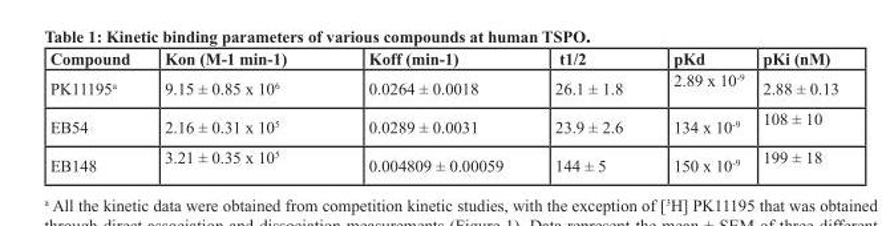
<table><thead><tr><td>Compound</td><td>Kon (M-1 min-1)</td><td>Koff (min-1)</td><td>t1/2</td><td>pKd</td><td>pKi (nM)</td></tr></thead><tbody><tr><td>PK11195<sup>a</sup></td><td>9.15 ± 0.85 x 106</td><td>0.0264 ± 0.0018</td><td>26.1 ± 1.8</td><td>2.89 x 10-9</td><td>2.88 ± 0.13</td></tr><tr><td>EB54</td><td>2.16 ± 0.31 x 105</td><td>0.0289 ± 0.0031</td><td>23.9 ± 2.6</td><td>134 x 10-9</td><td>108 ± 10</td></tr><tr><td>EB148</td><td>3.21 ± 0.35 x 105</td><td>0.004809 ± 0.00059</td><td>144 ± 5</td><td>150 x 10-9</td><td>199 ± 18</td></tr></tbody></table>